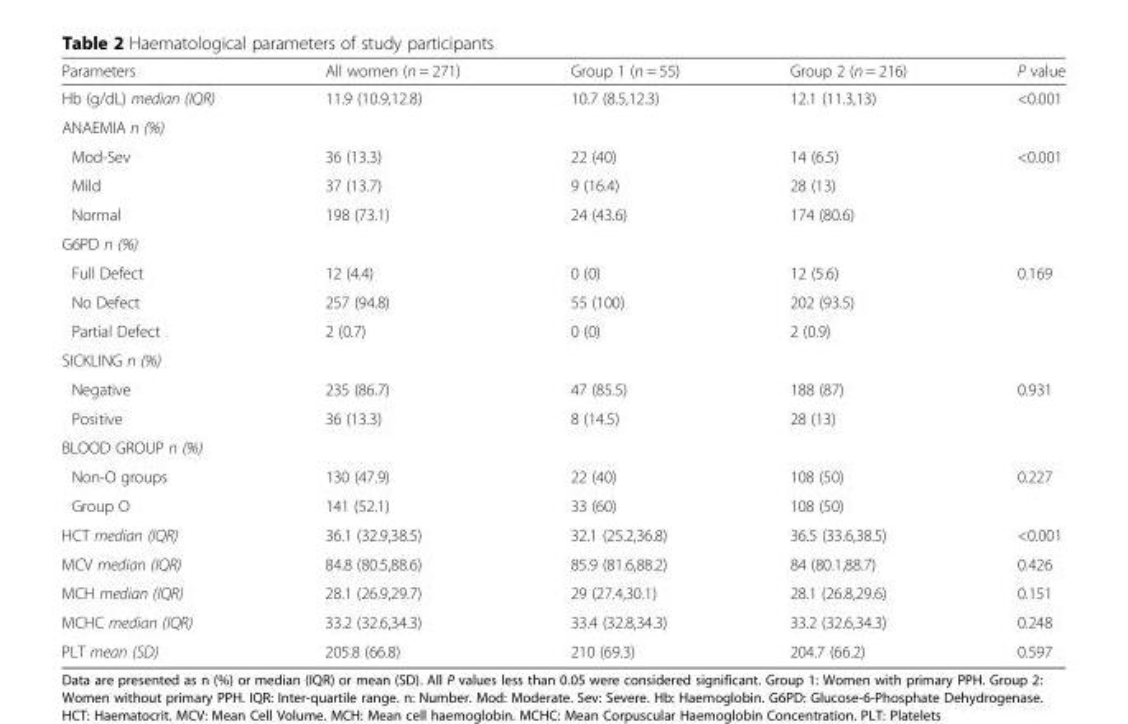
<table><thead><tr><td>Parameters</td><td>All women (n = 271)</td><td>Group 1 (n = 55)</td><td>Group 2 (n = 216)</td><td>P value</td></tr></thead><tbody><tr><td>Hb (g/dL) median (IQR)</td><td>11.9 (10.9,12.8)</td><td>10.7 (8.5,12.3)</td><td>12.1 (11.3,13)</td><td>&lt;0.001</td></tr><tr><td colspan="5">ANAEMIA n (%)</td></tr><tr><td>Mod-Sev</td><td>36 (13.3)</td><td>22 (40)</td><td>14 (6.5)</td><td rowspan="3">&lt;0.001</td></tr><tr><td>Mild</td><td>37 (13.7)</td><td>9 (16.4)</td><td>28 (13)</td></tr><tr><td>Normal</td><td>198 (73.1)</td><td>24 (43.6)</td><td>174 (80.6)</td></tr><tr><td colspan="5">G6PD n (%)</td></tr><tr><td>Full Defect</td><td>12 (4.4)</td><td>0 (0)</td><td>12 (5.6)</td><td rowspan="3">0.169</td></tr><tr><td>No Defect</td><td>257 (94.8)</td><td>55 (100)</td><td>202 (93.5)</td></tr><tr><td>Partial Defect</td><td>2 (0.7)</td><td>0 (0)</td><td>2 (0.9)</td></tr><tr><td colspan="5">SICKLING n (%)</td></tr><tr><td>Negative</td><td>235 (86.7)</td><td>47 (85.5)</td><td>188 (87)</td><td rowspan="2">0.931</td></tr><tr><td>Positive</td><td>36 (13.3)</td><td>8 (14.5)</td><td>28 (13)</td></tr><tr><td colspan="5">BLOOD GROUP n (%)</td></tr><tr><td>Non-O groups</td><td>130 (47.9)</td><td>22 (40)</td><td>108 (50)</td><td rowspan="2">0.227</td></tr><tr><td>Group O</td><td>141 (52.1)</td><td>33 (60)</td><td>108 (50)</td></tr><tr><td>HCT median (IQR)</td><td>36.1 (32.9,38.5)</td><td>32.1 (25.2,36.8)</td><td>36.5 (33.6,38.5)</td><td>&lt;0.001</td></tr><tr><td>MCV median (IQR)</td><td>84.8 (80.5,88.6)</td><td>85.9 (81.6,88.2)</td><td>84 (80.1,88.7)</td><td>0.426</td></tr><tr><td>MCH median (IQR)</td><td>28.1 (26.9,29.7)</td><td>29 (27.4,30.1)</td><td>28.1 (26.8,29.6)</td><td>0.151</td></tr><tr><td>MCHC median (IQR)</td><td>33.2 (32.6,34.3)</td><td>33.4 (32.8,34.3)</td><td>33.2 (32.6,34.3)</td><td>0.248</td></tr><tr><td>PLT mean (SD)</td><td>205.8 (66.8)</td><td>210 (69.3)</td><td>204.7 (66.2)</td><td>0.597</td></tr></tbody></table>